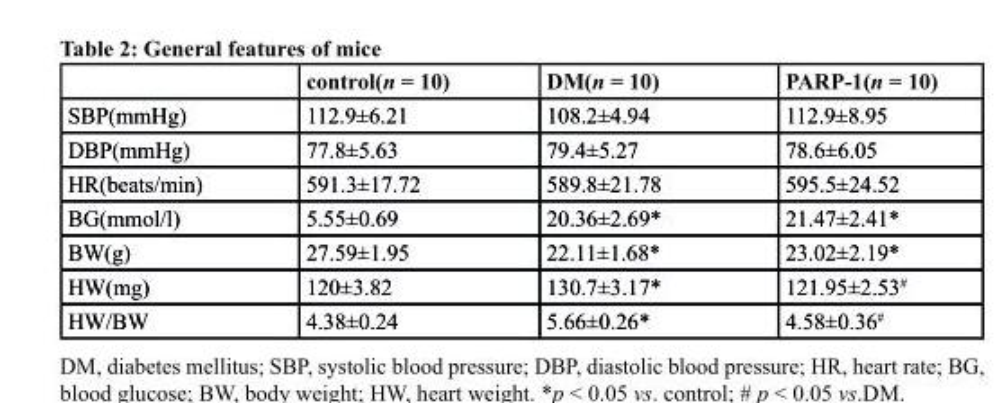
<table><thead><tr><td></td><td>control(n = 10)</td><td>DM(n = 10)</td><td>PArP-1(n = 10)</td></tr></thead><tbody><tr><td>SBP(mmHg)</td><td>112.9±6.21</td><td>108.2±4.94</td><td>112.9±8.95</td></tr><tr><td>DBP(mmHg)</td><td>77.8±5.63</td><td>79.4±5.27</td><td>78.6±6.05</td></tr><tr><td>HR(beats/min)</td><td>591.3±17.72</td><td>589.8±21.78</td><td>595.5±24.52</td></tr><tr><td>BG(mmol/l)</td><td>5.55±0.69</td><td>20.36±2.69*</td><td>21.47±2.41*</td></tr><tr><td>BW(g)</td><td>27.59±1.95</td><td>22.11±1.68*</td><td>23.02±2.19*</td></tr><tr><td>HW(mg)</td><td>120±3.82</td><td>130.7±3.17*</td><td>121.95±2.53<sup>#</sup></td></tr><tr><td>HW/BW</td><td>4.38±0.24</td><td>5.66±0.26*</td><td>4.58±0.36<sup>#</sup></td></tr></tbody></table>